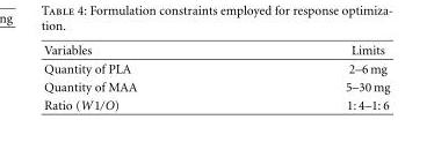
<table><thead><tr><td>Variables</td><td>Limits</td></tr></thead><tbody><tr><td>Quantity of PLA</td><td>2–6 mg</td></tr><tr><td>Quantity of MAA</td><td>5–30 mg</td></tr><tr><td>Ratio (W1/O)</td><td>1: 4–1: 6</td></tr></tbody></table>